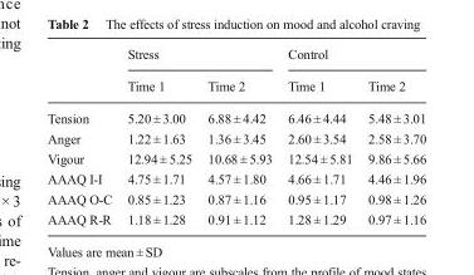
<table><thead><tr><td rowspan="2"></td><td colspan="2">Stress</td><td colspan="2">Control</td></tr><tr><td>Time 1</td><td>Time 2</td><td>Time 1</td><td>Time 2</td></tr></thead><tbody><tr><td>Tension</td><td>5.20 ± 3.00</td><td>6.88 ± 4.42</td><td>6.46 ± 4.44</td><td>5.48 ± 3.01</td></tr><tr><td>Anger</td><td>1.22 ± 1.63</td><td>1.36 ± 3.45</td><td>2.60 ± 3.54</td><td>2.58 ± 3.70</td></tr><tr><td>Vigour</td><td>12.94 ± 5.25</td><td>10.68 ± 5.93</td><td>12.54 ± 5.81</td><td>9.86 ± 5.66</td></tr><tr><td>AAAQ I-I</td><td>4.75 ± 1.71</td><td>4.57 ± 1.80</td><td>4.66 ± 1.71</td><td>4.46 ± 1.96</td></tr><tr><td>AAAQ O-C</td><td>0.85 ± 1.23</td><td>0.87 ± 1.16</td><td>0.95 ± 1.17</td><td>0.98 ± 1.26</td></tr><tr><td>AAAQ R-R</td><td>1.18 ± 1.28</td><td>0.91 ± 1.12</td><td>1.28 ± 1.29</td><td>0.97 ± 1.16</td></tr></tbody></table>